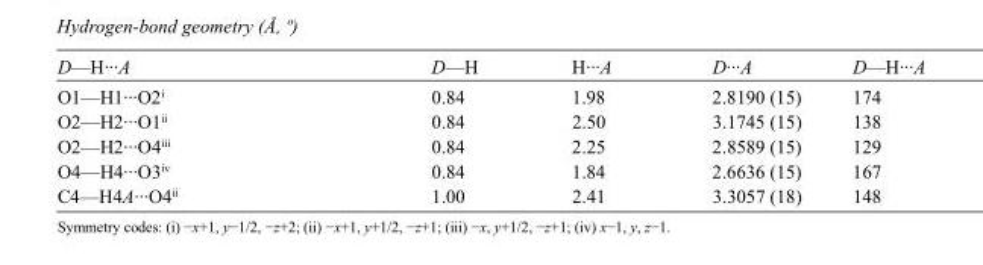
<table><tbody><tr><td>D—H···A</td><td>D—H</td><td>H···A</td><td>D···A</td><td>D—H···A</td></tr><tr><td>O1—H1···O2<sup>i</sup></td><td>0.84</td><td>1.98</td><td>2.8190 (15)</td><td>174</td></tr><tr><td>O2—H2···O1<sup>ii</sup></td><td>0.84</td><td>2.50</td><td>3.1745 (15)</td><td>138</td></tr><tr><td>O2—H2···O4<sup>iii</sup></td><td>0.84</td><td>2.25</td><td>2.8589 (15)</td><td>129</td></tr><tr><td>O4—H4···O3<sup>iv</sup></td><td>0.84</td><td>1.84</td><td>2.6636 (15)</td><td>167</td></tr><tr><td>C4—H4A···O4<sup>ii</sup></td><td>1.00</td><td>2.41</td><td>3.3057 (18)</td><td>148</td></tr></tbody></table>